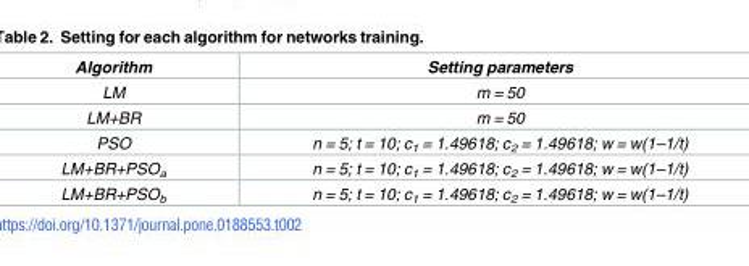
<table><thead><tr><td>Algorithm</td><td>Setting parameters</td></tr></thead><tbody><tr><td>LM</td><td>m = 50</td></tr><tr><td>LM+BR</td><td>m = 50</td></tr><tr><td>PSO</td><td>n = 5; t = 10; c<sub>1</sub> = 1.49618; c<sub>2</sub> = 1.49618; w = w(1–1/t)</td></tr><tr><td>LM+BR+PSO<sub>a</sub></td><td>n = 5; t = 10; c<sub>1</sub> = 1.49618; c<sub>2</sub> = 1.49618; w = w(1–1/t)</td></tr><tr><td>LM+BR+PSO<sub>b</sub></td><td>n = 5; t = 10; c<sub>1</sub> = 1.49618; c<sub>2</sub> = 1.49618; w = w(1–1/t)</td></tr></tbody></table>